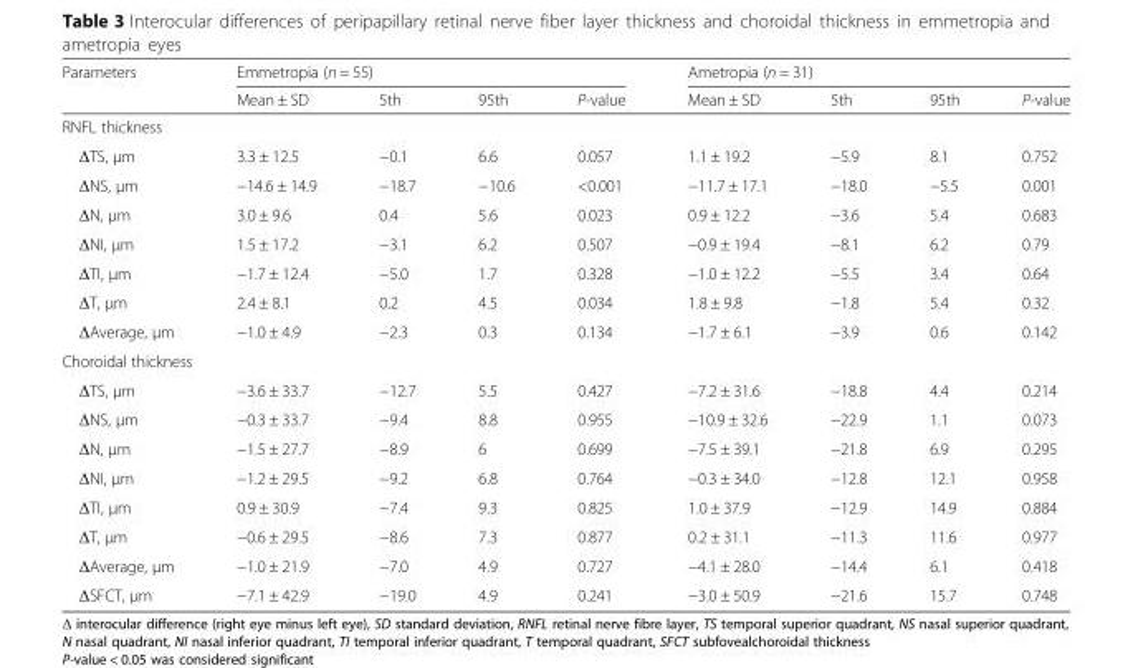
<table><thead><tr><td rowspan="2">Parameters</td><td colspan="4">Emmetropia (n = 55)</td><td colspan="4">Ametropia (n = 31)</td></tr><tr><td>Mean ± SD</td><td>5th</td><td>95th</td><td>P-value</td><td>Mean ± SD</td><td>5th</td><td>95th</td><td>P-value</td></tr></thead><tbody><tr><td colspan="9">RNFL thickness</td></tr><tr><td>ΔTS, μm</td><td>3.3 ± 12.5</td><td>−0.1</td><td>6.6</td><td>0.057</td><td>1.1 ± 19.2</td><td>−5.9</td><td>8.1</td><td>0.752</td></tr><tr><td>ΔNS, μm</td><td>−14.6 ± 14.9</td><td>−18.7</td><td>−10.6</td><td>&lt;0.001</td><td>−11.7 ± 17.1</td><td>−18.0</td><td>−5.5</td><td>0.001</td></tr><tr><td>ΔN, μm</td><td>3.0 ± 9.6</td><td>0.4</td><td>5.6</td><td>0.023</td><td>0.9 ± 12.2</td><td>−3.6</td><td>5.4</td><td>0.683</td></tr><tr><td>ΔNI, μm</td><td>1.5 ± 17.2</td><td>−3.1</td><td>6.2</td><td>0.507</td><td>−0.9 ± 19.4</td><td>−8.1</td><td>6.2</td><td>0.79</td></tr><tr><td>ΔTI, μm</td><td>−1.7 ± 12.4</td><td>−5.0</td><td>1.7</td><td>0.328</td><td>−1.0 ± 12.2</td><td>−5.5</td><td>3.4</td><td>0.64</td></tr><tr><td>ΔT, μm</td><td>2.4 ± 8.1</td><td>0.2</td><td>4.5</td><td>0.034</td><td>1.8 ± 9.8</td><td>−1.8</td><td>5.4</td><td>0.32</td></tr><tr><td>ΔAverage, μm</td><td>−1.0 ± 4.9</td><td>−2.3</td><td>0.3</td><td>0.134</td><td>−1.7 ± 6.1</td><td>−3.9</td><td>0.6</td><td>0.142</td></tr><tr><td colspan="9">Choroidal thickness</td></tr><tr><td>ΔTS, μm</td><td>−3.6 ± 33.7</td><td>−12.7</td><td>5.5</td><td>0.427</td><td>−7.2 ± 31.6</td><td>−18.8</td><td>4.4</td><td>0.214</td></tr><tr><td>ΔNS, μm</td><td>−0.3 ± 33.7</td><td>−9.4</td><td>8.8</td><td>0.955</td><td>−10.9 ± 32.6</td><td>−22.9</td><td>1.1</td><td>0.073</td></tr><tr><td>ΔN, μm</td><td>−1.5 ± 27.7</td><td>−8.9</td><td>6</td><td>0.699</td><td>−7.5 ± 39.1</td><td>−21.8</td><td>6.9</td><td>0.295</td></tr><tr><td>ΔNI, μm</td><td>−1.2 ± 29.5</td><td>−9.2</td><td>6.8</td><td>0.764</td><td>−0.3 ± 34.0</td><td>−12.8</td><td>12.1</td><td>0.958</td></tr><tr><td>ΔTI, μm</td><td>0.9 ± 30.9</td><td>−7.4</td><td>9.3</td><td>0.825</td><td>1.0 ± 37.9</td><td>−12.9</td><td>14.9</td><td>0.884</td></tr><tr><td>ΔT, μm</td><td>−0.6 ± 29.5</td><td>−8.6</td><td>7.3</td><td>0.877</td><td>0.2 ± 31.1</td><td>−11.3</td><td>11.6</td><td>0.977</td></tr><tr><td>ΔAverage, μm</td><td>−1.0 ± 21.9</td><td>−7.0</td><td>4.9</td><td>0.727</td><td>−4.1 ± 28.0</td><td>−14.4</td><td>6.1</td><td>0.418</td></tr><tr><td>ΔSFCT, μm</td><td>−7.1 ± 42.9</td><td>−19.0</td><td>4.9</td><td>0.241</td><td>−3.0 ± 50.9</td><td>−21.6</td><td>15.7</td><td>0.748</td></tr></tbody></table>